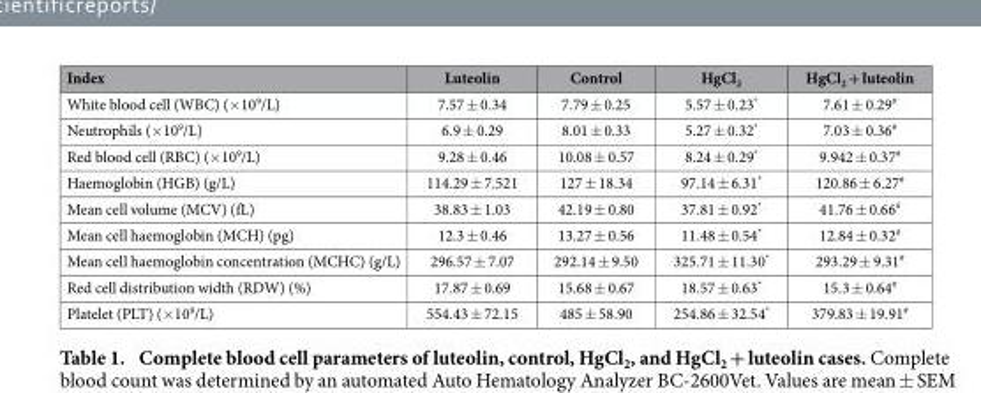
<table><thead><tr><td>Index</td><td>Luteolin</td><td>Control</td><td>HgCl<sub>2</sub></td><td>HgCl<sub>2</sub> + luteolin</td></tr></thead><tbody><tr><td>White blood cell (WBC) (× 10<sup>9</sup>/L)</td><td>7.57 ± 0.34</td><td>7.79 ± 0.25</td><td>5.57 ± 0.23*</td><td>7.61 ± 0.29#</td></tr><tr><td>Neutrophils (× 10<sup>9</sup>/L)</td><td>6.9 ± 0.29</td><td>8.01 ± 0.33</td><td>5.27 ± 0.32*</td><td>7.03 ± 0.36#</td></tr><tr><td>Red blood cell (RBC) (× 10<sup>9</sup>/L)</td><td>9.28 ± 0.46</td><td>10.08 ± 0.57</td><td>8.24 ± 0.29*</td><td>9.942 ± 0.37#</td></tr><tr><td>Haemoglobin (HGB) (g/L)</td><td>114.29 ± 7.521</td><td>127 ± 18.34</td><td>97.14 ± 6.31*</td><td>120.86 ± 6.27#</td></tr><tr><td>Mean cell volume (MCV) (fL)</td><td>38.83 ± 1.03</td><td>42.19 ± 0.80</td><td>37.81 ± 0.92*</td><td>41.76 ± 0.66#</td></tr><tr><td>Mean cell haemoglobin (MCH) (pg)</td><td>12.3 ± 0.46</td><td>13.27 ± 0.56</td><td>11.48 ± 0.54*</td><td>12.84 ± 0.32#</td></tr><tr><td>Mean cell haemoglobin concentration (MCHC) (g/L)</td><td>296.57 ± 7.07</td><td>292.14 ± 9.50</td><td>325.71 ± 11.30*</td><td>293.29 ± 9.31#</td></tr><tr><td>Red cell distribution width (RDW) (%)</td><td>17.87 ± 0.69</td><td>15.68 ± 0.67</td><td>18.57 ± 0.63*</td><td>15.3 ± 0.64#</td></tr><tr><td>Platelet (PLT) (× 10<sup>9</sup>/L)</td><td>554.43 ± 72.15</td><td>485 ± 58.90</td><td>254.86 ± 32.54*</td><td>379.83 ± 19.91#</td></tr></tbody></table>